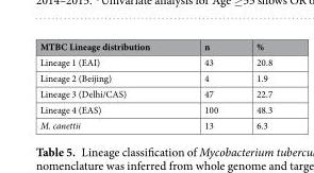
<table><thead><tr><td>MTBC Lineage distribution</td><td>n</td><td>%</td></tr></thead><tbody><tr><td>Lineage 1 (EAI)</td><td>43</td><td>20.8</td></tr><tr><td>Lineage 2 (Beijing)</td><td>4</td><td>1.9</td></tr><tr><td>Lineage 3 (Delhi/CAS)</td><td>47</td><td>22.7</td></tr><tr><td>Lineage 4 (EAS)</td><td>100</td><td>48.3</td></tr><tr><td>M. canettii</td><td>13</td><td>6.3</td></tr></tbody></table>